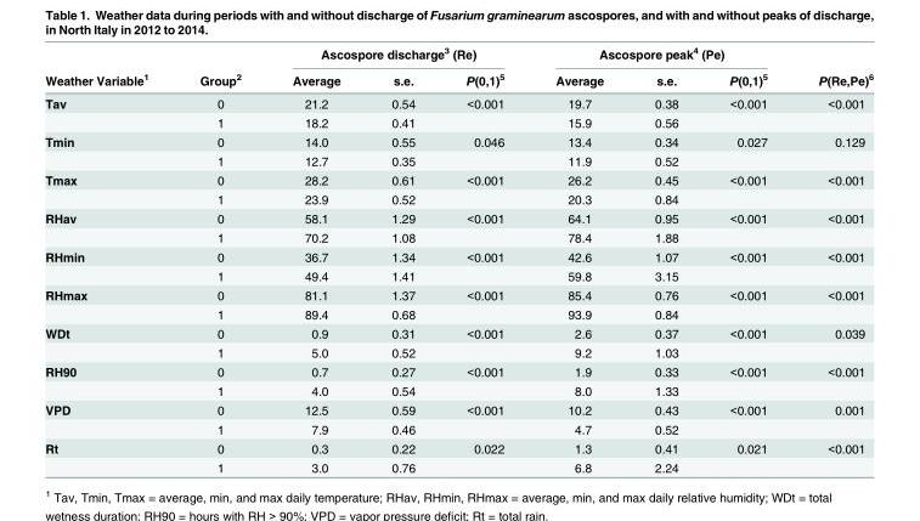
<table><thead><tr><td rowspan="2">Weather Variable<sup>1</sup></td><td rowspan="2">Group<sup>2</sup></td><td colspan="3">Ascospore discharge<sup>3</sup> (Re)</td><td colspan="3">Ascospore peak<sup>4</sup> (Pe)</td><td rowspan="2">P(Re,Pe)<sup>6</sup></td></tr><tr><td>Average</td><td>s.e.</td><td>P(0,1)<sup>5</sup></td><td>Average</td><td>s.e.</td><td>P(0,1)<sup>5</sup></td></tr></thead><tbody><tr><td rowspan="2">Tav</td><td>0</td><td>21.2</td><td>0.54</td><td>&lt;0.001</td><td>19.7</td><td>0.38</td><td>&lt;0.001</td><td>&lt;0.001</td></tr><tr><td>1</td><td>18.2</td><td>0.41</td><td></td><td>15.9</td><td>0.56</td><td></td><td></td></tr><tr><td rowspan="2">Tmin</td><td>0</td><td>14.0</td><td>0.55</td><td>0.046</td><td>13.4</td><td>0.34</td><td>0.027</td><td>0.129</td></tr><tr><td>1</td><td>12.7</td><td>0.35</td><td></td><td>11.9</td><td>0.52</td><td></td><td></td></tr><tr><td rowspan="2">Tmax</td><td>0</td><td>28.2</td><td>0.61</td><td>&lt;0.001</td><td>26.2</td><td>0.45</td><td>&lt;0.001</td><td>&lt;0.001</td></tr><tr><td>1</td><td>23.9</td><td>0.52</td><td></td><td>20.3</td><td>0.84</td><td></td><td></td></tr><tr><td rowspan="2">RHav</td><td>0</td><td>58.1</td><td>1.29</td><td>&lt;0.001</td><td>64.1</td><td>0.95</td><td>&lt;0.001</td><td>&lt;0.001</td></tr><tr><td>1</td><td>70.2</td><td>1.08</td><td></td><td>78.4</td><td>1.88</td><td></td><td></td></tr><tr><td rowspan="2">RHmin</td><td>0</td><td>36.7</td><td>1.34</td><td>&lt;0.001</td><td>42.6</td><td>1.07</td><td>&lt;0.001</td><td>&lt;0.001</td></tr><tr><td>1</td><td>49.4</td><td>1.41</td><td></td><td>59.8</td><td>3.15</td><td></td><td></td></tr><tr><td rowspan="2">RHmax</td><td>0</td><td>81.1</td><td>1.37</td><td>&lt;0.001</td><td>85.4</td><td>0.76</td><td>&lt;0.001</td><td>&lt;0.001</td></tr><tr><td>1</td><td>89.4</td><td>0.68</td><td></td><td>93.9</td><td>0.84</td><td></td><td></td></tr><tr><td rowspan="2">WDt</td><td>0</td><td>0.9</td><td>0.31</td><td>&lt;0.001</td><td>2.6</td><td>0.37</td><td>&lt;0.001</td><td>0.039</td></tr><tr><td>1</td><td>5.0</td><td>0.52</td><td></td><td>9.2</td><td>1.03</td><td></td><td></td></tr><tr><td rowspan="2">RH90</td><td>0</td><td>0.7</td><td>0.27</td><td>&lt;0.001</td><td>1.9</td><td>0.33</td><td>&lt;0.001</td><td>&lt;0.001</td></tr><tr><td>1</td><td>4.0</td><td>0.54</td><td></td><td>8.0</td><td>1.33</td><td></td><td></td></tr><tr><td rowspan="2">VPD</td><td>0</td><td>12.5</td><td>0.59</td><td>&lt;0.001</td><td>10.2</td><td>0.43</td><td>&lt;0.001</td><td>0.001</td></tr><tr><td>1</td><td>7.9</td><td>0.46</td><td></td><td>4.7</td><td>0.52</td><td></td><td></td></tr><tr><td rowspan="2">Rt</td><td>0</td><td>0.3</td><td>0.22</td><td>0.022</td><td>1.3</td><td>0.41</td><td>0.021</td><td>&lt;0.001</td></tr><tr><td>1</td><td>3.0</td><td>0.76</td><td></td><td>6.8</td><td>2.24</td><td></td><td></td></tr></tbody></table>